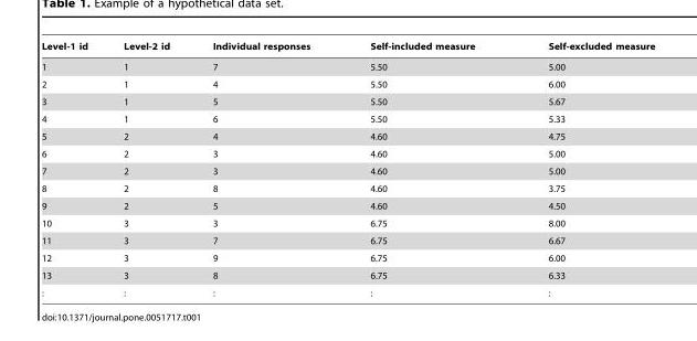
<table><thead><tr><td>Level-1 id</td><td>Level-2 id</td><td>Individual responses</td><td>Self-included measure</td><td>Self-excluded measure</td></tr></thead><tbody><tr><td>1</td><td>1</td><td>7</td><td>5.50</td><td>5.00</td></tr><tr><td>2</td><td>1</td><td>4</td><td>5.50</td><td>6.00</td></tr><tr><td>3</td><td>1</td><td>5</td><td>5.50</td><td>5.67</td></tr><tr><td>4</td><td>1</td><td>6</td><td>5.50</td><td>5.33</td></tr><tr><td>5</td><td>2</td><td>4</td><td>4.60</td><td>4.75</td></tr><tr><td>6</td><td>2</td><td>3</td><td>4.60</td><td>5.00</td></tr><tr><td>7</td><td>2</td><td>3</td><td>4.60</td><td>5.00</td></tr><tr><td>8</td><td>2</td><td>8</td><td>4.60</td><td>3.75</td></tr><tr><td>9</td><td>2</td><td>5</td><td>4.60</td><td>4.50</td></tr><tr><td>10</td><td>3</td><td>3</td><td>6.75</td><td>8.00</td></tr><tr><td>11</td><td>3</td><td>7</td><td>6.75</td><td>6.67</td></tr><tr><td>12</td><td>3</td><td>9</td><td>6.75</td><td>6.00</td></tr><tr><td>13</td><td>3</td><td>8</td><td>6.75</td><td>6.33</td></tr><tr><td>:</td><td>:</td><td>:</td><td>:</td><td>:</td></tr></tbody></table>